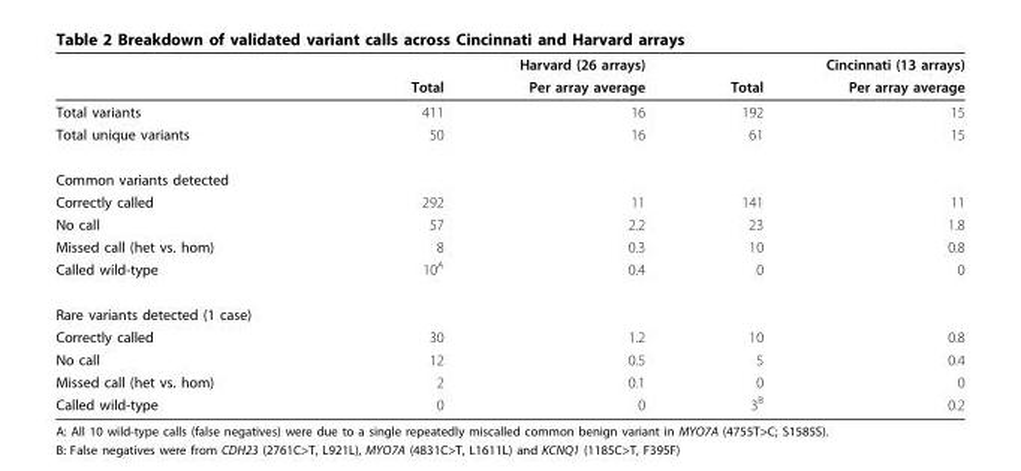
<table><thead><tr><td rowspan="2"></td><td colspan="2">Harvard (26 arrays)</td><td colspan="2">Cincinnati (13 arrays)</td></tr><tr><td>Total</td><td>Per array average</td><td>Total</td><td>Per array average</td></tr></thead><tbody><tr><td>Total variants</td><td>411</td><td>16</td><td>192</td><td>15</td></tr><tr><td>Total unique variants</td><td>50</td><td>16</td><td>61</td><td>15</td></tr><tr><td colspan="5">Common variants detected</td></tr><tr><td>Correctly called</td><td>292</td><td>11</td><td>141</td><td>11</td></tr><tr><td>No call</td><td>57</td><td>2.2</td><td>23</td><td>1.8</td></tr><tr><td>Missed call (het vs. hom)</td><td>8</td><td>0.3</td><td>10</td><td>0.8</td></tr><tr><td>Called wild-type</td><td>10<sup>A</sup></td><td>0.4</td><td>0</td><td>0</td></tr><tr><td colspan="5">Rare variants detected (1 case)</td></tr><tr><td>Correctly called</td><td>30</td><td>1.2</td><td>10</td><td>0.8</td></tr><tr><td>No call</td><td>12</td><td>0.5</td><td>5</td><td>0.4</td></tr><tr><td>Missed call (het vs. hom)</td><td>2</td><td>0.1</td><td>0</td><td>0</td></tr><tr><td>Called wild-type</td><td>0</td><td>0</td><td>3<sup>B</sup></td><td>0.2</td></tr></tbody></table>